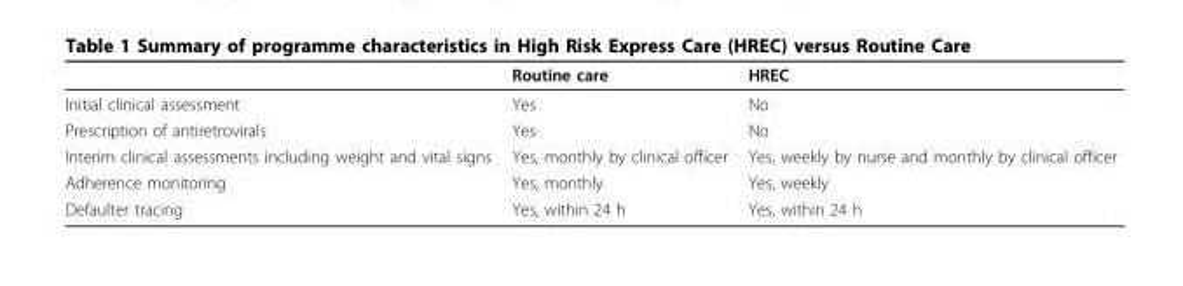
<table><thead><tr><td></td><td>Routine care</td><td>HREC</td></tr></thead><tbody><tr><td>Initial clinical assessment</td><td>Yes</td><td>No</td></tr><tr><td>Prescription of antiretrovirals</td><td>Yes</td><td>No</td></tr><tr><td>Interim clinical assessments including weight and vital signs</td><td>Yes, monthly by clinical officer</td><td>Yes, weekly by nurse and monthly by clinical officer</td></tr><tr><td>Adherence monitoring</td><td>Yes, monthly</td><td>Yes, weekly</td></tr><tr><td>Defaulter tracing</td><td>Yes, within 24 h</td><td>Yes, within 24 h</td></tr></tbody></table>